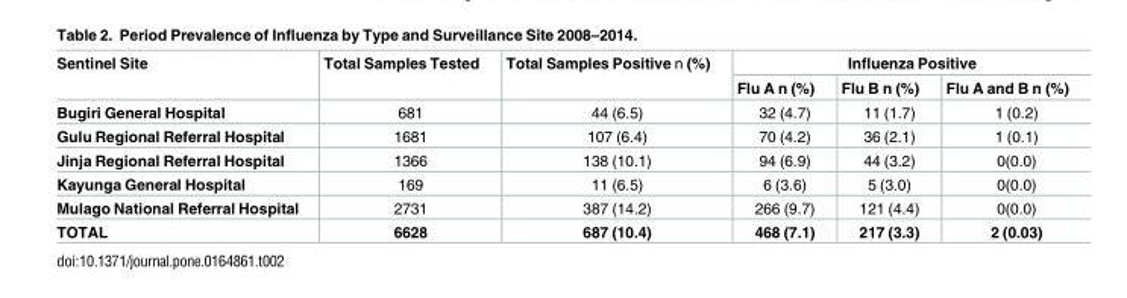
<table><thead><tr><td rowspan="2">Sentinel Site</td><td rowspan="2">Total Samples Tested</td><td rowspan="2">Total Samples Positive n (%)</td><td colspan="3">Influenza Positive</td></tr><tr><td>Flu A n (%)</td><td>Flu B n (%)</td><td>Flu A and B n (%)</td></tr></thead><tbody><tr><td>Bugiri General Hospital</td><td>681</td><td>44 (6.5)</td><td>32 (4.7)</td><td>11 (1.7)</td><td>1 (0.2)</td></tr><tr><td>Gulu Regional Referral Hospital</td><td>1681</td><td>107 (6.4)</td><td>70 (4.2)</td><td>36 (2.1)</td><td>1 (0.1)</td></tr><tr><td>Jinja Regional Referral Hospital</td><td>1366</td><td>138 (10.1)</td><td>94 (6.9)</td><td>44 (3.2)</td><td>0(0.0)</td></tr><tr><td>Kayunga General Hospital</td><td>169</td><td>11 (6.5)</td><td>6 (3.6)</td><td>5 (3.0)</td><td>0(0.0)</td></tr><tr><td>Mulago National Referral Hospital</td><td>2731</td><td>387 (14.2)</td><td>266 (9.7)</td><td>121 (4.4)</td><td>0(0.0)</td></tr><tr><td>TOTAL</td><td>6628</td><td>687 (10.4)</td><td>468 (7.1)</td><td>217 (3.3)</td><td>2 (0.03)</td></tr></tbody></table>